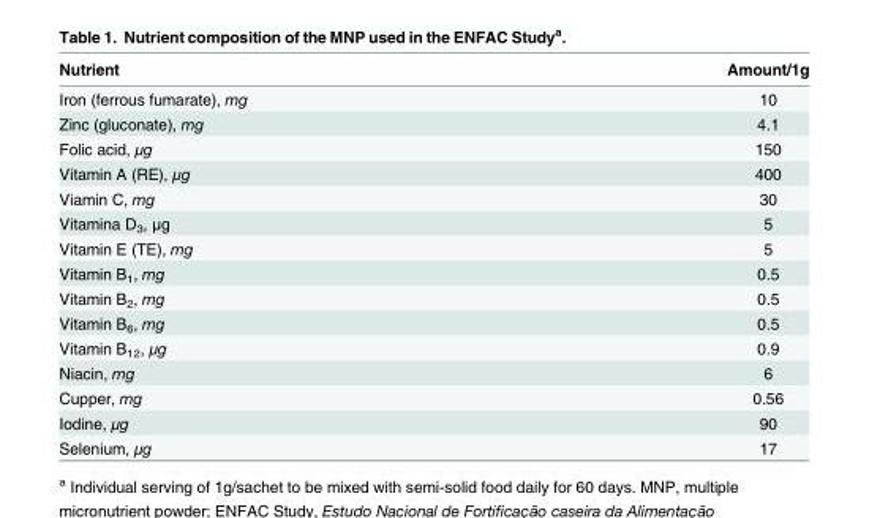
<table><thead><tr><td>Nutrient</td><td>Amount/1g</td></tr></thead><tbody><tr><td>Iron (ferrous fumarate), mg</td><td>10</td></tr><tr><td>Zinc (gluconate), mg</td><td>4.1</td></tr><tr><td>Folic acid, μg</td><td>150</td></tr><tr><td>Vitamin A (RE), μg</td><td>400</td></tr><tr><td>Viamin C, mg</td><td>30</td></tr><tr><td>Vitamina D<sub>3</sub>, μg</td><td>5</td></tr><tr><td>Vitamin E (TE), mg</td><td>5</td></tr><tr><td>Vitamin B<sub>1</sub>, mg</td><td>0.5</td></tr><tr><td>Vitamin B<sub>2</sub>, mg</td><td>0.5</td></tr><tr><td>Vitamin B<sub>6</sub>, mg</td><td>0.5</td></tr><tr><td>Vitamin B<sub>12</sub>, μg</td><td>0.9</td></tr><tr><td>Niacin, mg</td><td>6</td></tr><tr><td>Cupper, mg</td><td>0.56</td></tr><tr><td>Iodine, μg</td><td>90</td></tr><tr><td>Selenium, μg</td><td>17</td></tr></tbody></table>